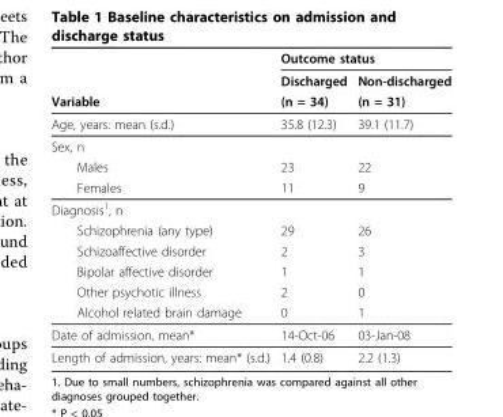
<table><thead><tr><td rowspan="3">Variable</td><td colspan="2">Outcome status</td></tr><tr><td rowspan="2">Discharged (n = 34)</td><td rowspan="2">Non-discharged (n = 31)</td></tr><tr></tr></thead><tbody><tr><td>Age, years: mean (s.d.)</td><td>35.8 (12.3)</td><td>39.1 (11.7)</td></tr><tr><td colspan="3">Sex, n</td></tr><tr><td>Males</td><td>23</td><td>22</td></tr><tr><td>Females</td><td>11</td><td>9</td></tr><tr><td colspan="3">Diagnosis<sup>1</sup>, n</td></tr><tr><td>Schizophrenia (any type)</td><td>29</td><td>26</td></tr><tr><td>Schizoaffective disorder</td><td>2</td><td>3</td></tr><tr><td>Bipolar affective disorder</td><td>1</td><td>1</td></tr><tr><td>Other psychotic illness</td><td>2</td><td>0</td></tr><tr><td>Alcohol related brain damage</td><td>0</td><td>1</td></tr><tr><td>Date of admission, mean*</td><td>14-Oct-06</td><td>03-Jan-08</td></tr><tr><td>Length of admission, years: mean* (s.d.)</td><td>1.4 (0.8)</td><td>2.2 (1.3)</td></tr></tbody></table>